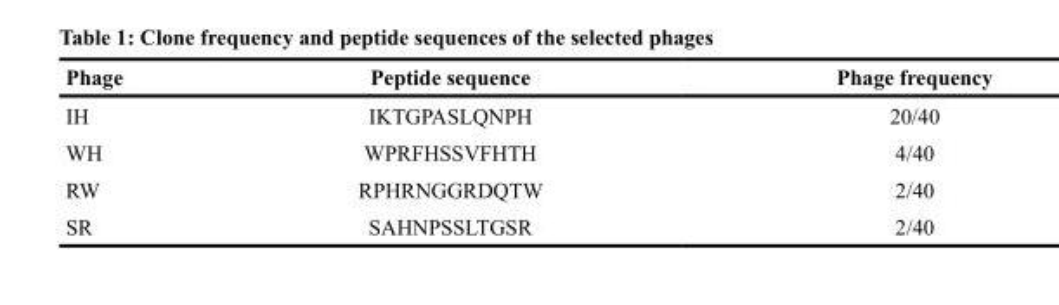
<table><thead><tr><td>Phage</td><td>Peptide sequence</td><td>Phage frequency</td></tr></thead><tbody><tr><td>IH</td><td>IKTGPASLQNPH</td><td>20/40</td></tr><tr><td>WH</td><td>WPRFHSSVFHTH</td><td>4/40</td></tr><tr><td>RW</td><td>RPHRNGGRDQTW</td><td>2/40</td></tr><tr><td>SR</td><td>SAHNPSSLTGSR</td><td>2/40</td></tr></tbody></table>